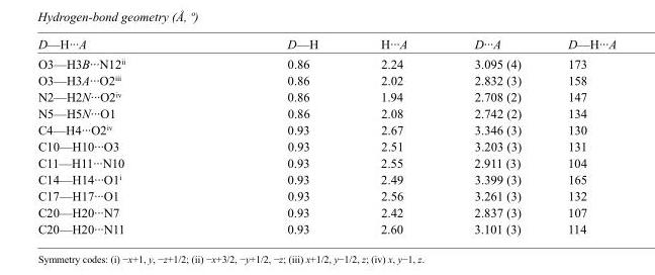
<table><tbody><tr><td>D—H···A</td><td>D—H</td><td>H···A</td><td>D···A</td><td>D—H···A</td></tr><tr><td>O3—H3B···N12<sup>ii</sup></td><td>0.86</td><td>2.24</td><td>3.095 (4)</td><td>173</td></tr><tr><td>O3—H3A···O2<sup>iii</sup></td><td>0.86</td><td>2.02</td><td>2.832 (3)</td><td>158</td></tr><tr><td>N2—H2N···O2<sup>iv</sup></td><td>0.86</td><td>1.94</td><td>2.708 (2)</td><td>147</td></tr><tr><td>N5—H5N···O1</td><td>0.86</td><td>2.08</td><td>2.742 (2)</td><td>134</td></tr><tr><td>C4—H4···O2<sup>iv</sup></td><td>0.93</td><td>2.67</td><td>3.346 (3)</td><td>130</td></tr><tr><td>C10—H10···O3</td><td>0.93</td><td>2.51</td><td>3.203 (3)</td><td>131</td></tr><tr><td>C11—H11···N10</td><td>0.93</td><td>2.55</td><td>2.911 (3)</td><td>104</td></tr><tr><td>C14—H14···O1<sup>i</sup></td><td>0.93</td><td>2.49</td><td>3.399 (3)</td><td>165</td></tr><tr><td>C17—H17···O1</td><td>0.93</td><td>2.56</td><td>3.261 (3)</td><td>132</td></tr><tr><td>C20—H20···N7</td><td>0.93</td><td>2.42</td><td>2.837 (3)</td><td>107</td></tr><tr><td>C20—H20···N11</td><td>0.93</td><td>2.60</td><td>3.101 (3)</td><td>114</td></tr></tbody></table>